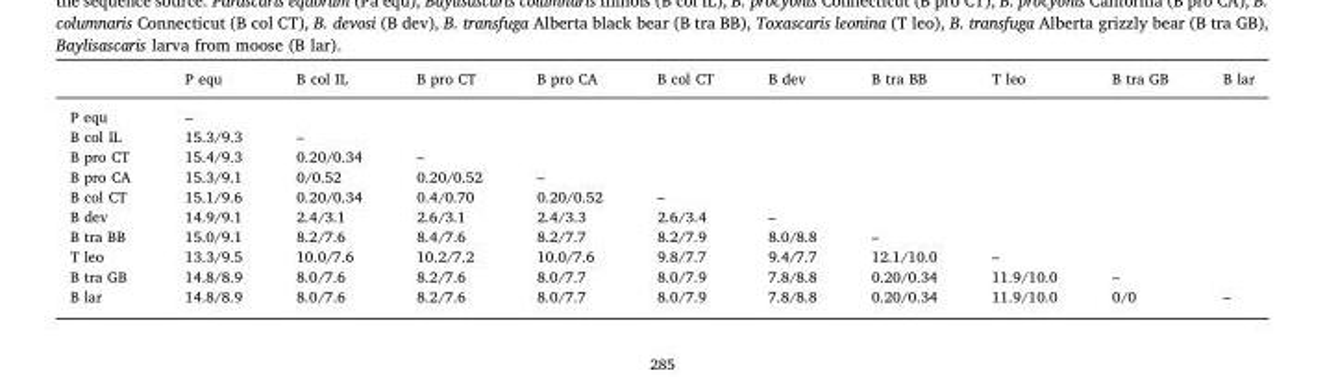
<table><thead><tr><td></td><td>P equ</td><td>B col IL</td><td>B pro CT</td><td>B pro CA</td><td>B col CT</td><td>B dev</td><td>B tra BB</td><td>T leo</td><td>B tra GB</td><td>B lar</td></tr></thead><tbody><tr><td>P equ</td><td>–</td><td></td><td></td><td></td><td></td><td></td><td></td><td></td><td></td><td></td></tr><tr><td>B col IL</td><td>15.3/9.3</td><td>–</td><td></td><td></td><td></td><td></td><td></td><td></td><td></td><td></td></tr><tr><td>B pro CT</td><td>15.4/9.3</td><td>0.20/0.34</td><td>–</td><td></td><td></td><td></td><td></td><td></td><td></td><td></td></tr><tr><td>B pro CA</td><td>15.3/9.1</td><td>0/0.52</td><td>0.20/0.52</td><td>–</td><td></td><td></td><td></td><td></td><td></td><td></td></tr><tr><td>B col CT</td><td>15.1/9.6</td><td>0.20/0.34</td><td>0.4/0.70</td><td>0.20/0.52</td><td>–</td><td></td><td></td><td></td><td></td><td></td></tr><tr><td>B dev</td><td>14.9/9.1</td><td>2.4/3.1</td><td>2.6/3.1</td><td>2.4/3.3</td><td>2.6/3.4</td><td>–</td><td></td><td></td><td></td><td></td></tr><tr><td>B tra BB</td><td>15.0/9.1</td><td>8.2/7.6</td><td>8.4/7.6</td><td>8.2/7.7</td><td>8.2/7.9</td><td>8.0/8.8</td><td>–</td><td></td><td></td><td></td></tr><tr><td>T leo</td><td>13.3/9.5</td><td>10.0/7.6</td><td>10.2/7.2</td><td>10.0/7.6</td><td>9.8/7.7</td><td>9.4/7.7</td><td>12.1/10.0</td><td>–</td><td></td><td></td></tr><tr><td>B tra GB</td><td>14.8/8.9</td><td>8.0/7.6</td><td>8.2/7.6</td><td>8.0/7.7</td><td>8.0/7.9</td><td>7.8/8.8</td><td>0.20/0.34</td><td>11.9/10.0</td><td>–</td><td></td></tr><tr><td>B lar</td><td>14.8/8.9</td><td>8.0/7.6</td><td>8.2/7.6</td><td>8.0/7.7</td><td>8.0/7.9</td><td>7.8/8.8</td><td>0.20/0.34</td><td>11.9/10.0</td><td>0/0</td><td>–</td></tr></tbody></table>